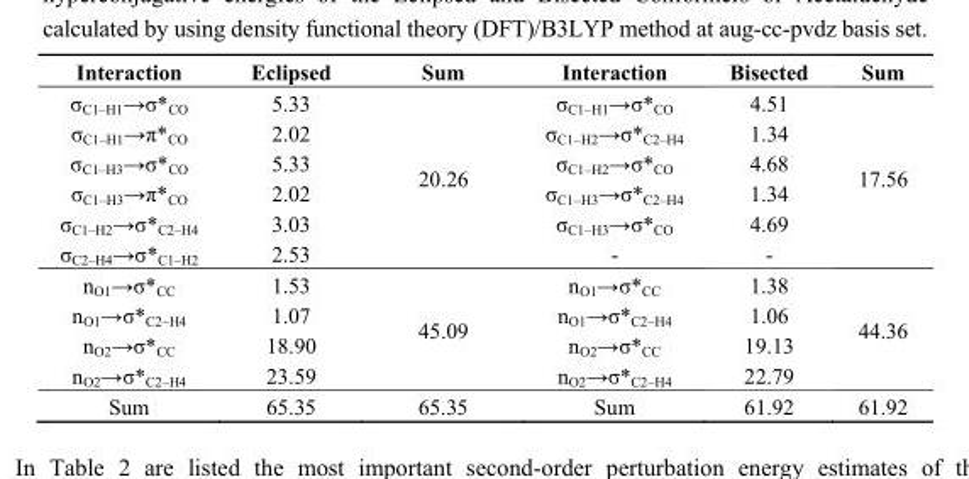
<table><thead><tr><td>Interaction</td><td>Eclipsed</td><td>Sum</td><td>Interaction</td><td>Bisected</td><td>Sum</td></tr></thead><tbody><tr><td>σ<sub>C1–H1</sub>→σ*<sub>CO</sub></td><td>5.33</td><td rowspan="6">20.26</td><td>σ<sub>C1–H1</sub>→σ*<sub>CO</sub></td><td>4.51</td><td rowspan="6">17.56</td></tr><tr><td>σ<sub>C1–H1</sub>→π*<sub>CO</sub></td><td>2.02</td><td>σ<sub>C1–H2</sub>→σ*<sub>C2–H4</sub></td><td>1.34</td></tr><tr><td>σ<sub>C1–H3</sub>→σ*<sub>CO</sub></td><td>5.33</td><td>σ<sub>C1–H2</sub>→σ*<sub>CO</sub></td><td>4.68</td></tr><tr><td>σ<sub>C1–H3</sub>→π*<sub>CO</sub></td><td>2.02</td><td>σ<sub>C1–H3</sub>→σ*<sub>C2–H4</sub></td><td>1.34</td></tr><tr><td>σ<sub>C1–H2</sub>→σ*<sub>C2–H4</sub></td><td>3.03</td><td>σ<sub>C1–H3</sub>→σ*<sub>CO</sub></td><td>4.69</td></tr><tr><td>σ<sub>C2–H4</sub>→σ*<sub>C1–H2</sub></td><td>2.53</td><td>-</td><td>-</td></tr><tr><td>n<sub>O1</sub>→σ*<sub>CC</sub></td><td>1.53</td><td rowspan="4">45.09</td><td>n<sub>O1</sub>→σ*<sub>CC</sub></td><td>1.38</td><td rowspan="4">44.36</td></tr><tr><td>n<sub>O1</sub>→σ*<sub>C2–H4</sub></td><td>1.07</td><td>n<sub>O1</sub>→σ*<sub>C2–H4</sub></td><td>1.06</td></tr><tr><td>n<sub>O2</sub>→σ*<sub>CC</sub></td><td>18.90</td><td>n<sub>O2</sub>→σ*<sub>CC</sub></td><td>19.13</td></tr><tr><td>n<sub>O2</sub>→σ*<sub>C2–H4</sub></td><td>23.59</td><td>n<sub>O2</sub>→σ*<sub>C2–H4</sub></td><td>22.79</td></tr><tr><td>Sum</td><td>65.35</td><td>65.35</td><td>Sum</td><td>61.92</td><td>61.92</td></tr></tbody></table>